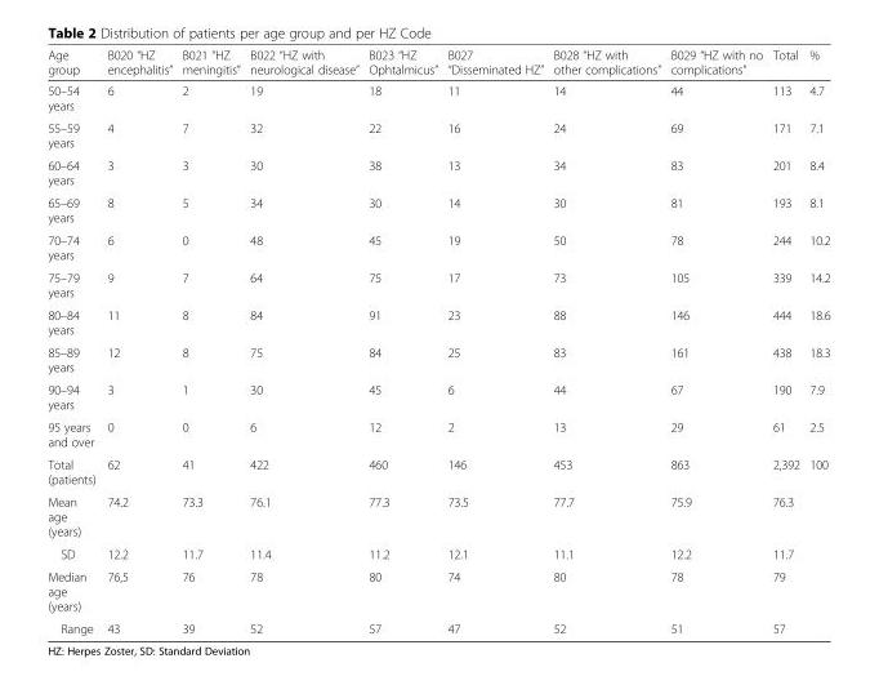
<table><thead><tr><td>Age group</td><td>B020 “HZ encephalitis”</td><td>B021 “HZ meningitis”</td><td>B022 “HZ with neurological disease”</td><td>B023 “HZ Ophtalmicus”</td><td>B027 “Disseminated HZ”</td><td>B028 “HZ with other complications”</td><td>B029 “HZ with no complications”</td><td>Total</td><td>%</td></tr></thead><tbody><tr><td>50–54 years</td><td>6</td><td>2</td><td>19</td><td>18</td><td>11</td><td>14</td><td>44</td><td>113</td><td>4.7</td></tr><tr><td>55–59 years</td><td>4</td><td>7</td><td>32</td><td>22</td><td>16</td><td>24</td><td>69</td><td>171</td><td>7.1</td></tr><tr><td>60–64 years</td><td>3</td><td>3</td><td>30</td><td>38</td><td>13</td><td>34</td><td>83</td><td>201</td><td>8.4</td></tr><tr><td>65–69 years</td><td>8</td><td>5</td><td>34</td><td>30</td><td>14</td><td>30</td><td>81</td><td>193</td><td>8.1</td></tr><tr><td>70–74 years</td><td>6</td><td>0</td><td>48</td><td>45</td><td>19</td><td>50</td><td>78</td><td>244</td><td>10.2</td></tr><tr><td>75–79 years</td><td>9</td><td>7</td><td>64</td><td>75</td><td>17</td><td>73</td><td>105</td><td>339</td><td>14.2</td></tr><tr><td>80–84 years</td><td>11</td><td>8</td><td>84</td><td>91</td><td>23</td><td>88</td><td>146</td><td>444</td><td>18.6</td></tr><tr><td>85–89 years</td><td>12</td><td>8</td><td>75</td><td>84</td><td>25</td><td>83</td><td>161</td><td>438</td><td>18.3</td></tr><tr><td>90–94 years</td><td>3</td><td>1</td><td>30</td><td>45</td><td>6</td><td>44</td><td>67</td><td>190</td><td>7.9</td></tr><tr><td>95 years and over</td><td>0</td><td>0</td><td>6</td><td>12</td><td>2</td><td>13</td><td>29</td><td>61</td><td>2.5</td></tr><tr><td>Total (patients)</td><td>62</td><td>41</td><td>422</td><td>460</td><td>146</td><td>453</td><td>863</td><td>2,392</td><td>100</td></tr><tr><td>Mean age (years)</td><td>74.2</td><td>73.3</td><td>76.1</td><td>77.3</td><td>73.5</td><td>77.7</td><td>75.9</td><td>76.3</td><td></td></tr><tr><td>SD</td><td>12.2</td><td>11.7</td><td>11.4</td><td>11.2</td><td>12.1</td><td>11.1</td><td>12.2</td><td>11.7</td><td></td></tr><tr><td>Median age (years)</td><td>76,5</td><td>76</td><td>78</td><td>80</td><td>74</td><td>80</td><td>78</td><td>79</td><td></td></tr><tr><td>Range</td><td>43</td><td>39</td><td>52</td><td>57</td><td>47</td><td>52</td><td>51</td><td>57</td><td></td></tr></tbody></table>